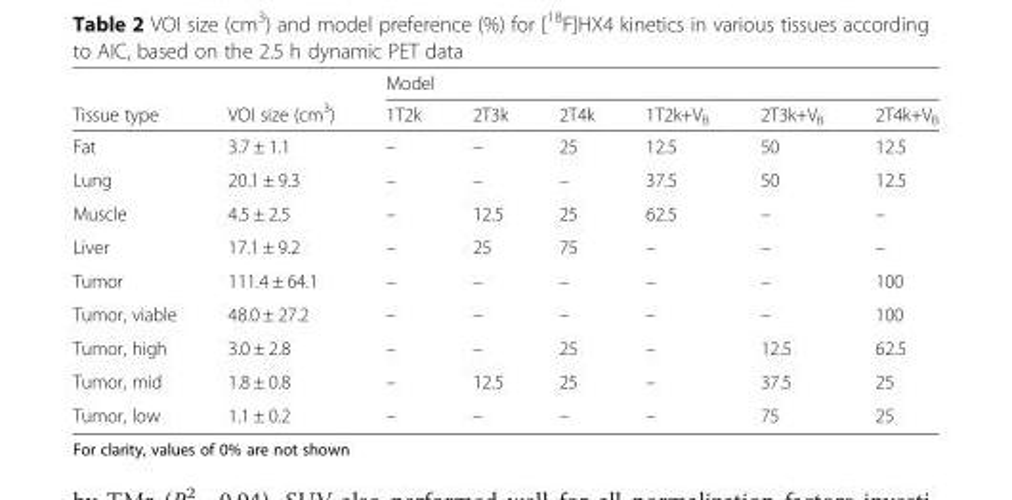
<table><thead><tr><td rowspan="2">Tissue type</td><td rowspan="2">VOI size (cm<sup>3</sup>)</td><td colspan="6">Model</td></tr><tr><td>1T2k</td><td>2T3k</td><td>2T4k</td><td>1T2k+V<sub>B</sub></td><td>2T3k+V<sub>B</sub></td><td>2T4k+V<sub>B</sub></td></tr></thead><tbody><tr><td>Fat</td><td>3.7 ± 1.1</td><td>–</td><td>–</td><td>25</td><td>12.5</td><td>50</td><td>12.5</td></tr><tr><td>Lung</td><td>20.1 ± 9.3</td><td>–</td><td>–</td><td>–</td><td>37.5</td><td>50</td><td>12.5</td></tr><tr><td>Muscle</td><td>4.5 ± 2.5</td><td>–</td><td>12.5</td><td>25</td><td>62.5</td><td>–</td><td>–</td></tr><tr><td>Liver</td><td>17.1 ± 9.2</td><td>–</td><td>25</td><td>75</td><td>–</td><td>–</td><td>–</td></tr><tr><td>Tumor</td><td>111.4 ± 64.1</td><td>–</td><td>–</td><td>–</td><td>–</td><td>–</td><td>100</td></tr><tr><td>Tumor, viable</td><td>48.0 ± 27.2</td><td>–</td><td>–</td><td>–</td><td>–</td><td>–</td><td>100</td></tr><tr><td>Tumor, high</td><td>3.0 ± 2.8</td><td>–</td><td>–</td><td>25</td><td>–</td><td>12.5</td><td>62.5</td></tr><tr><td>Tumor, mid</td><td>1.8 ± 0.8</td><td>–</td><td>12.5</td><td>25</td><td>–</td><td>37.5</td><td>25</td></tr><tr><td>Tumor, low</td><td>1.1 ± 0.2</td><td>–</td><td>–</td><td>–</td><td>–</td><td>75</td><td>25</td></tr></tbody></table>